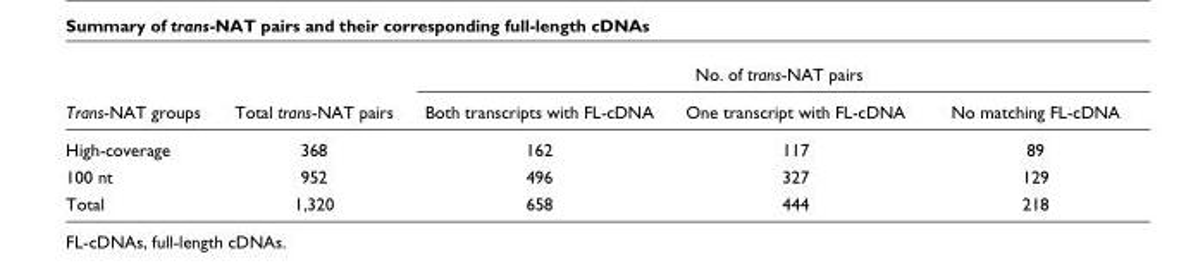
<table><thead><tr><td rowspan="2">Trans-NAT groups</td><td rowspan="2">Total trans-NAT pairs</td><td colspan="3">No. of trans-NAT pairs</td></tr><tr><td>Both transcripts with FL-cDNA</td><td>One transcript with FL-cDNA</td><td>No matching FL-cDNA</td></tr></thead><tbody><tr><td>High-coverage</td><td>368</td><td>162</td><td>117</td><td>89</td></tr><tr><td>100 nt</td><td>952</td><td>496</td><td>327</td><td>129</td></tr><tr><td>Total</td><td>1,320</td><td>658</td><td>444</td><td>218</td></tr></tbody></table>